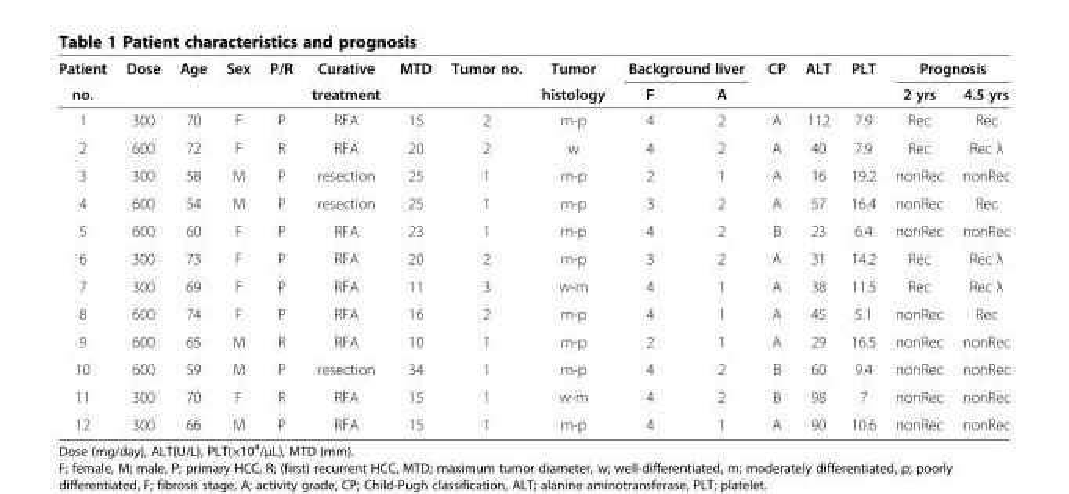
<table><thead><tr><td rowspan="2">Patient no.</td><td rowspan="2">Dose</td><td rowspan="2">Age</td><td rowspan="2">Sex</td><td rowspan="2">P/R</td><td rowspan="2">Curative treatment</td><td rowspan="2">MTD</td><td rowspan="2">Tumor no.</td><td rowspan="2">Tumor histology</td><td colspan="2">Background liver</td><td rowspan="2">CP</td><td rowspan="2">ALT</td><td rowspan="2">PLT</td><td colspan="2">Prognosis</td></tr><tr><td>F</td><td>A</td><td>2 yrs</td><td>4.5 yrs</td></tr></thead><tbody><tr><td>1</td><td>300</td><td>70</td><td>F</td><td>P</td><td>RFA</td><td>15</td><td>2</td><td>m-p</td><td>4</td><td>2</td><td>A</td><td>112</td><td>7.9</td><td>Rec</td><td>Rec</td></tr><tr><td>2</td><td>600</td><td>72</td><td>F</td><td>R</td><td>RFA</td><td>20</td><td>2</td><td>w</td><td>4</td><td>2</td><td>A</td><td>40</td><td>7.9</td><td>Rec</td><td>Rec λ</td></tr><tr><td>3</td><td>300</td><td>58</td><td>M</td><td>P</td><td>resection</td><td>25</td><td>1</td><td>m-p</td><td>2</td><td>1</td><td>A</td><td>16</td><td>19.2</td><td>nonRec</td><td>nonRec</td></tr><tr><td>4</td><td>600</td><td>54</td><td>M</td><td>P</td><td>resection</td><td>25</td><td>1</td><td>m-p</td><td>3</td><td>2</td><td>A</td><td>57</td><td>16.4</td><td>nonRec</td><td>Rec</td></tr><tr><td>5</td><td>600</td><td>60</td><td>F</td><td>P</td><td>RFA</td><td>23</td><td>1</td><td>m-p</td><td>4</td><td>2</td><td>B</td><td>23</td><td>6.4</td><td>nonRec</td><td>nonRec</td></tr><tr><td>6</td><td>300</td><td>73</td><td>F</td><td>P</td><td>RFA</td><td>20</td><td>2</td><td>m-p</td><td>3</td><td>2</td><td>A</td><td>31</td><td>14.2</td><td>Rec</td><td>Rec λ</td></tr><tr><td>7</td><td>300</td><td>69</td><td>F</td><td>P</td><td>RFA</td><td>11</td><td>3</td><td>w-m</td><td>4</td><td>1</td><td>A</td><td>38</td><td>11.5</td><td>Rec</td><td>Rec λ</td></tr><tr><td>8</td><td>600</td><td>74</td><td>F</td><td>P</td><td>RFA</td><td>16</td><td>2</td><td>m-p</td><td>4</td><td>1</td><td>A</td><td>45</td><td>5.1</td><td>nonRec</td><td>Rec</td></tr><tr><td>9</td><td>600</td><td>65</td><td>M</td><td>R</td><td>RFA</td><td>10</td><td>1</td><td>m-p</td><td>2</td><td>1</td><td>A</td><td>29</td><td>16.5</td><td>nonRec</td><td>nonRec</td></tr><tr><td>10</td><td>600</td><td>59</td><td>M</td><td>P</td><td>resection</td><td>34</td><td>1</td><td>m-p</td><td>4</td><td>2</td><td>B</td><td>60</td><td>9.4</td><td>nonRec</td><td>nonRec</td></tr><tr><td>11</td><td>300</td><td>70</td><td>F</td><td>R</td><td>RFA</td><td>15</td><td>1</td><td>w-m</td><td>4</td><td>2</td><td>B</td><td>98</td><td>7</td><td>nonRec</td><td>nonRec</td></tr><tr><td>12</td><td>300</td><td>66</td><td>M</td><td>P</td><td>RFA</td><td>15</td><td>1</td><td>m-p</td><td>4</td><td>1</td><td>A</td><td>90</td><td>10.6</td><td>nonRec</td><td>nonRec</td></tr></tbody></table>